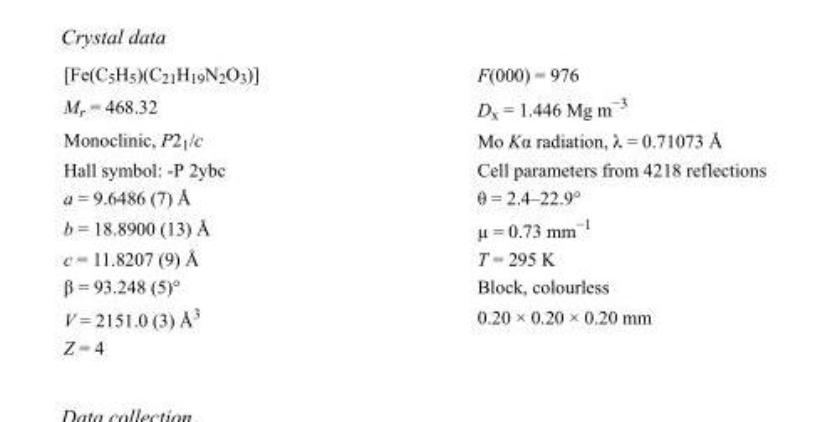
<table><tbody><tr><td>[Fe(C<sub>5</sub>H<sub>5</sub>)(C<sub>21</sub>H<sub>19</sub>N<sub>2</sub>O<sub>3</sub>)]</td><td>F(000) = 976</td></tr><tr><td>M<sub>r</sub> = 468.32</td><td>D<sub>x</sub> = 1.446 Mg m<sup>−3</sup></td></tr><tr><td>Monoclinic, P2<sub>1</sub>/c</td><td>Mo Kα radiation, λ = 0.71073 Å</td></tr><tr><td>Hall symbol: -P 2ybc</td><td>Cell parameters from 4218 reflections</td></tr><tr><td>a = 9.6486 (7) Å</td><td>θ = 2.4–22.9°</td></tr><tr><td>b = 18.8900 (13) Å</td><td>µ = 0.73 mm<sup>−1</sup></td></tr><tr><td>c = 11.8207 (9) Å</td><td>T = 295 K</td></tr><tr><td>β = 93.248 (5)°</td><td>Block, colourless</td></tr><tr><td>V = 2151.0 (3) Å<sup>3</sup></td><td>0.20 × 0.20 × 0.20 mm</td></tr><tr><td>Z = 4</td><td></td></tr></tbody></table>